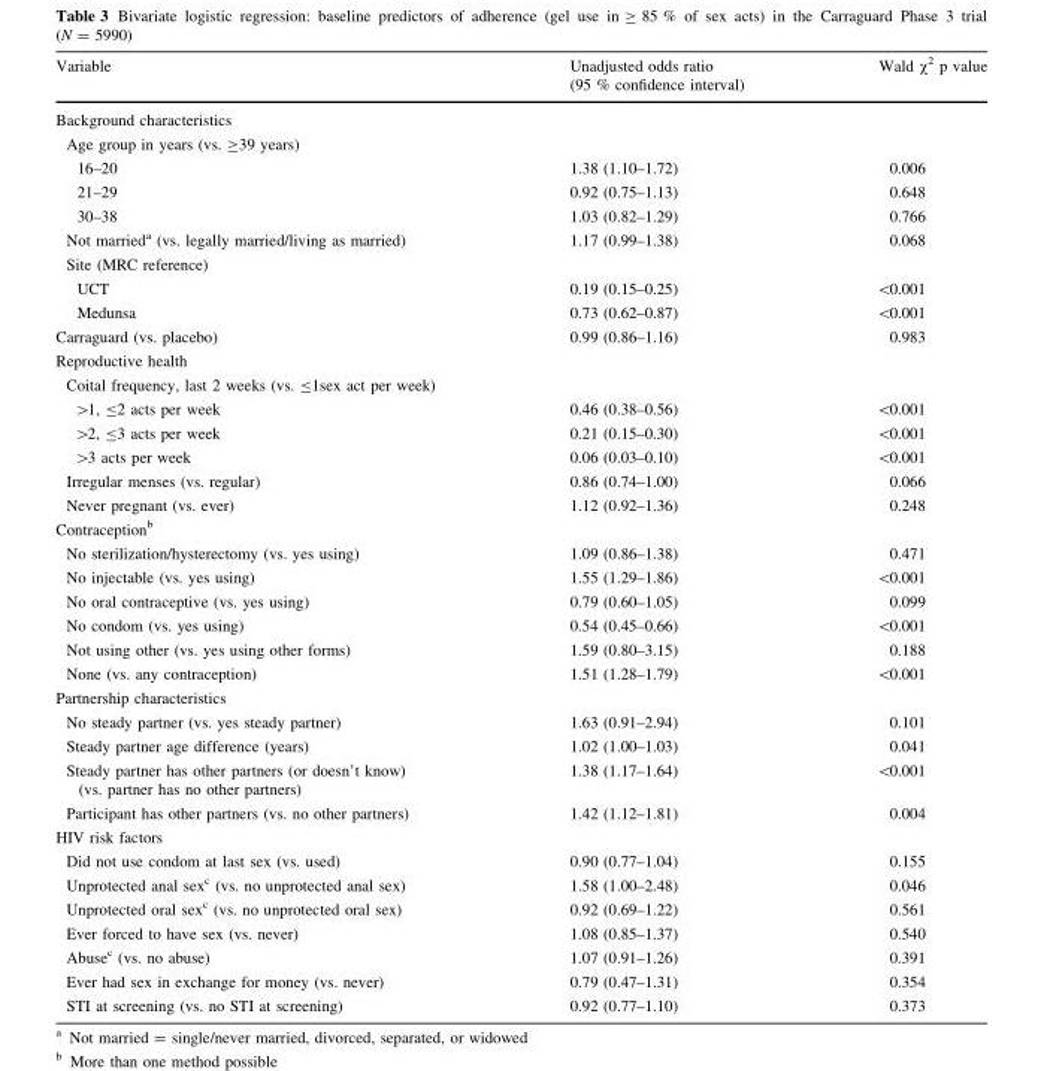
<table><thead><tr><td>Variable</td><td>Unadjusted odds ratio (95 % confidence interval)</td><td>Wald χ<sup>2</sup> p value</td></tr></thead><tbody><tr><td colspan="3">Background characteristics</td></tr><tr><td colspan="3">Age group in years (vs. ≥39 years)</td></tr><tr><td>16–20</td><td>1.38 (1.10–1.72)</td><td>0.006</td></tr><tr><td>21–29</td><td>0.92 (0.75–1.13)</td><td>0.648</td></tr><tr><td>30–38</td><td>1.03 (0.82–1.29)</td><td>0.766</td></tr><tr><td>Not married<sup>a</sup> (vs. legally married/living as married)</td><td>1.17 (0.99–1.38)</td><td>0.068</td></tr><tr><td colspan="3">Site (MRC reference)</td></tr><tr><td>UCT</td><td>0.19 (0.15–0.25)</td><td>&lt;0.001</td></tr><tr><td>Medunsa</td><td>0.73 (0.62–0.87)</td><td>&lt;0.001</td></tr><tr><td>Carraguard (vs. placebo)</td><td>0.99 (0.86–1.16)</td><td>0.983</td></tr><tr><td colspan="3">Reproductive health</td></tr><tr><td colspan="3">Coital frequency, last 2 weeks (vs. ≤1sex act per week)</td></tr><tr><td>&gt;1, ≤2 acts per week</td><td>0.46 (0.38–0.56)</td><td>&lt;0.001</td></tr><tr><td>&gt;2, ≤3 acts per week</td><td>0.21 (0.15–0.30)</td><td>&lt;0.001</td></tr><tr><td>&gt;3 acts per week</td><td>0.06 (0.03–0.10)</td><td>&lt;0.001</td></tr><tr><td>Irregular menses (vs. regular)</td><td>0.86 (0.74–1.00)</td><td>0.066</td></tr><tr><td>Never pregnant (vs. ever)</td><td>1.12 (0.92–1.36)</td><td>0.248</td></tr><tr><td colspan="3">Contraception<sup>b</sup></td></tr><tr><td>No sterilization/hysterectomy (vs. yes using)</td><td>1.09 (0.86–1.38)</td><td>0.471</td></tr><tr><td>No injectable (vs. yes using)</td><td>1.55 (1.29–1.86)</td><td>&lt;0.001</td></tr><tr><td>No oral contraceptive (vs. yes using)</td><td>0.79 (0.60–1.05)</td><td>0.099</td></tr><tr><td>No condom (vs. yes using)</td><td>0.54 (0.45–0.66)</td><td>&lt;0.001</td></tr><tr><td>Not using other (vs. yes using other forms)</td><td>1.59 (0.80–3.15)</td><td>0.188</td></tr><tr><td>None (vs. any contraception)</td><td>1.51 (1.28–1.79)</td><td>&lt;0.001</td></tr><tr><td colspan="3">Partnership characteristics</td></tr><tr><td>No steady partner (vs. yes steady partner)</td><td>1.63 (0.91–2.94)</td><td>0.101</td></tr><tr><td>Steady partner age difference (years)</td><td>1.02 (1.00–1.03)</td><td>0.041</td></tr><tr><td>Steady partner has other partners (or doesn’t know) (vs. partner has no other partners)</td><td>1.38 (1.17–1.64)</td><td>&lt;0.001</td></tr><tr><td>Participant has other partners (vs. no other partners)</td><td>1.42 (1.12–1.81)</td><td>0.004</td></tr><tr><td colspan="3">HIV risk factors</td></tr><tr><td>Did not use condom at last sex (vs. used)</td><td>0.90 (0.77–1.04)</td><td>0.155</td></tr><tr><td>Unprotected anal sex<sup>c</sup> (vs. no unprotected anal sex)</td><td>1.58 (1.00–2.48)</td><td>0.046</td></tr><tr><td>Unprotected oral sex<sup>c</sup> (vs. no unprotected oral sex)</td><td>0.92 (0.69–1.22)</td><td>0.561</td></tr><tr><td>Ever forced to have sex (vs. never)</td><td>1.08 (0.85–1.37)</td><td>0.540</td></tr><tr><td>Abuse<sup>c</sup> (vs. no abuse)</td><td>1.07 (0.91–1.26)</td><td>0.391</td></tr><tr><td>Ever had sex in exchange for money (vs. never)</td><td>0.79 (0.47–1.31)</td><td>0.354</td></tr><tr><td>STI at screening (vs. no STI at screening)</td><td>0.92 (0.77–1.10)</td><td>0.373</td></tr></tbody></table>